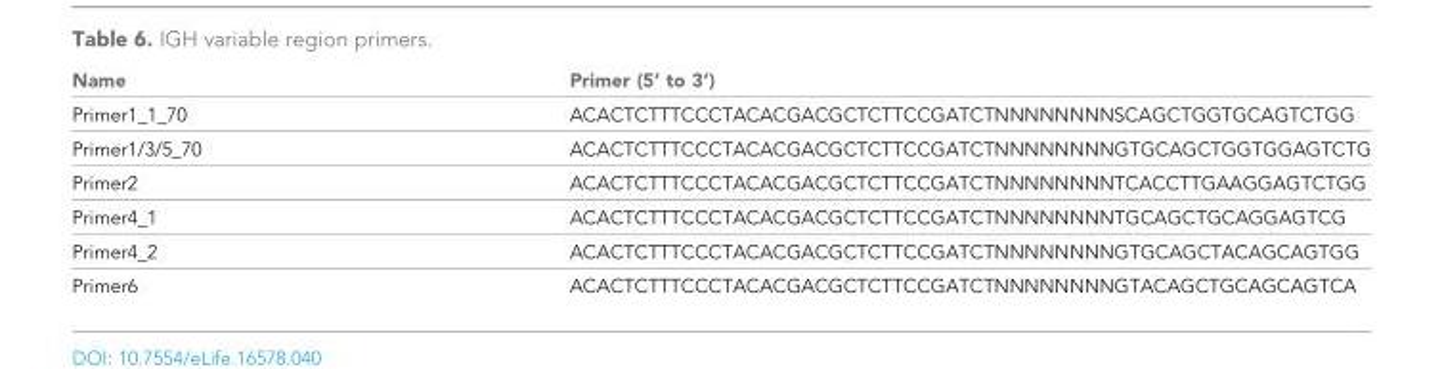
<table><thead><tr><td>Name</td><td>Primer (5’ to 3’)</td></tr></thead><tbody><tr><td>Primer1_1_70</td><td>ACACTCTTTCCCTACACGACGCTCTTCCGATCTNNNNNNNNSCAGCTGGTGCAGTCTGG</td></tr><tr><td>Primer1/3/5_70</td><td>ACACTCTTTCCCTACACGACGCTCTTCCGATCTNNNNNNNNGTGCAGCTGGTGGAGTCTG</td></tr><tr><td>Primer2</td><td>ACACTCTTTCCCTACACGACGCTCTTCCGATCTNNNNNNNNTCACCTTGAAGGAGTCTGG</td></tr><tr><td>Primer4_1</td><td>ACACTCTTTCCCTACACGACGCTCTTCCGATCTNNNNNNNNTGCAGCTGCAGGAGTCG</td></tr><tr><td>Primer4_2</td><td>ACACTCTTTCCCTACACGACGCTCTTCCGATCTNNNNNNNNGTGCAGCTACAGCAGTGG</td></tr><tr><td>Primer6</td><td>ACACTCTTTCCCTACACGACGCTCTTCCGATCTNNNNNNNNGTACAGCTGCAGCAGTCA</td></tr></tbody></table>